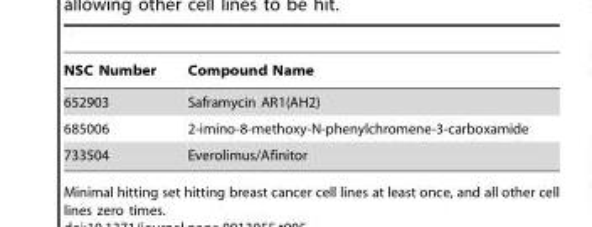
<table><thead><tr><td>NSC Number</td><td>Compound Name</td></tr></thead><tbody><tr><td>652903</td><td>Saframycin AR1(AH2)</td></tr><tr><td>685006</td><td>2-imino-8-methoxy-N-phenylchromene-3-carboxamide</td></tr><tr><td>733504</td><td>Everolimus/Afinitor</td></tr></tbody></table>